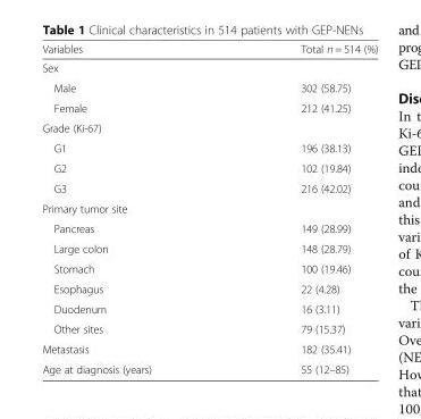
<table><thead><tr><td>Variables</td><td>Total n = 514 (%)</td></tr></thead><tbody><tr><td colspan="2">Sex</td></tr><tr><td>Male</td><td>302 (58.75)</td></tr><tr><td>Female</td><td>212 (41.25)</td></tr><tr><td colspan="2">Grade (Ki-67)</td></tr><tr><td>G1</td><td>196 (38.13)</td></tr><tr><td>G2</td><td>102 (19.84)</td></tr><tr><td>G3</td><td>216 (42.02)</td></tr><tr><td colspan="2">Primary tumor site</td></tr><tr><td>Pancreas</td><td>149 (28.99)</td></tr><tr><td>Large colon</td><td>148 (28.79)</td></tr><tr><td>Stomach</td><td>100 (19.46)</td></tr><tr><td>Esophagus</td><td>22 (4.28)</td></tr><tr><td>Duodenum</td><td>16 (3.11)</td></tr><tr><td>Other sites</td><td>79 (15.37)</td></tr><tr><td>Metastasis</td><td>182 (35.41)</td></tr><tr><td>Age at diagnosis (years)</td><td>55 (12–85)</td></tr></tbody></table>